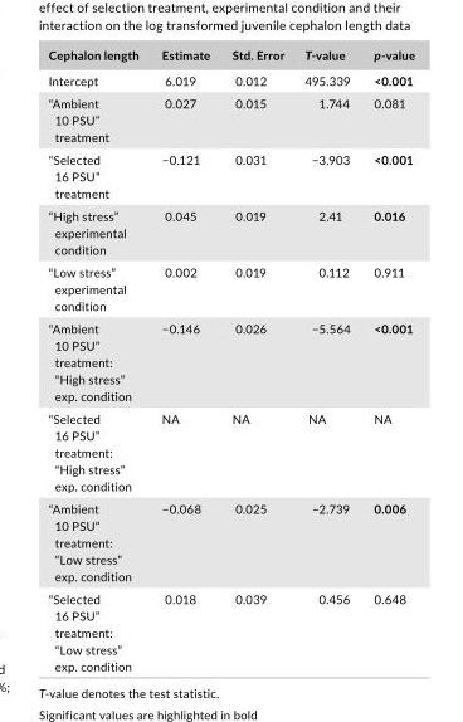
<table><thead><tr><td>Cephalon length</td><td>Estimate</td><td>Std. Error</td><td>T- value</td><td>p- value</td></tr></thead><tbody><tr><td>Intercept</td><td>6.019</td><td>0.012</td><td>495.339</td><td>&lt;0.001</td></tr><tr><td>“Ambient 10 PSU” treatment</td><td>0.027</td><td>0.015</td><td>1.744</td><td>0.081</td></tr><tr><td>“Selected 16 PSU” treatment</td><td>−0.121</td><td>0.031</td><td>−3.903</td><td>&lt;0.001</td></tr><tr><td>“High stress” experimental condition</td><td>0.045</td><td>0.019</td><td>2.41</td><td>0.016</td></tr><tr><td>“Low stress” experimental condition</td><td>0.002</td><td>0.019</td><td>0.112</td><td>0.911</td></tr><tr><td>“Ambient 10 PSU” treatment: “High stress” exp. condition</td><td>−0.146</td><td>0.026</td><td>−5.564</td><td>&lt;0.001</td></tr><tr><td>“Selected 16 PSU” treatment: “High stress” exp. condition</td><td>NA</td><td>NA</td><td>NA</td><td>NA</td></tr><tr><td>“Ambient 10 PSU” treatment: “Low stress” exp. condition</td><td>−0.068</td><td>0.025</td><td>−2.739</td><td>0.006</td></tr><tr><td>“Selected 16 PSU” treatment: “Low stress” exp. condition</td><td>0.018</td><td>0.039</td><td>0.456</td><td>0.648</td></tr></tbody></table>